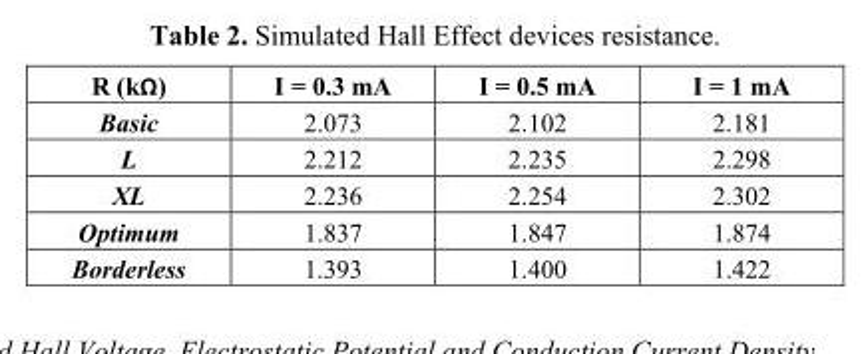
<table><thead><tr><td>R (kΩ)</td><td>I = 0.3 mA</td><td>I = 0.5 mA</td><td>I = 1 mA</td></tr></thead><tbody><tr><td>Basic</td><td>2.073</td><td>2.102</td><td>2.181</td></tr><tr><td>L</td><td>2.212</td><td>2.235</td><td>2.298</td></tr><tr><td>XL</td><td>2.236</td><td>2.254</td><td>2.302</td></tr><tr><td>Optimum</td><td>1.837</td><td>1.847</td><td>1.874</td></tr><tr><td>Borderless</td><td>1.393</td><td>1.400</td><td>1.422</td></tr></tbody></table>